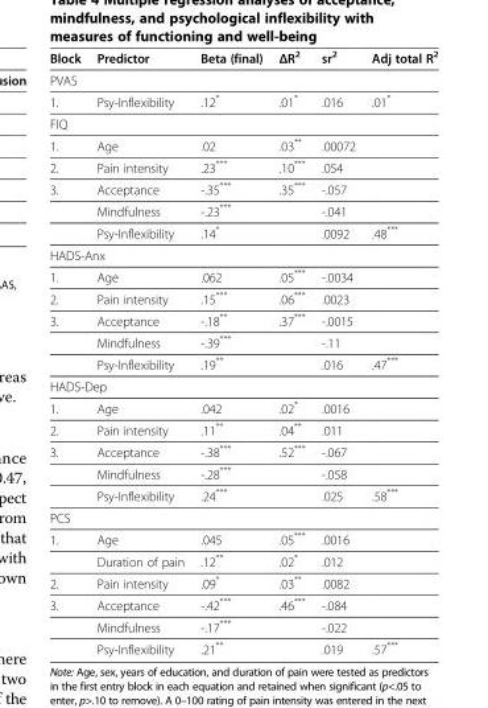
<table><thead><tr><td>Block</td><td>Predictor</td><td>Beta (final)</td><td>ΔR<sup>2</sup></td><td>sr<sup>2</sup></td><td>Adj total R<sup>2</sup></td></tr></thead><tbody><tr><td colspan="6">PVAS</td></tr><tr><td>1.</td><td>Psy-Inflexibility</td><td>.12*</td><td>.01*</td><td>.016</td><td>.01*</td></tr><tr><td colspan="6">FIQ</td></tr><tr><td>1.</td><td>Age</td><td>.02</td><td>.03**</td><td>.00072</td><td></td></tr><tr><td>2.</td><td>Pain intensity</td><td>.23***</td><td>.10***</td><td>.054</td><td></td></tr><tr><td rowspan="3">3.</td><td>Acceptance</td><td>-.35***</td><td>.35***</td><td>-.057</td><td></td></tr><tr><td>Mindfulness</td><td>-.23***</td><td></td><td>-.041</td><td></td></tr><tr><td>Psy-Inflexibility</td><td>.14*</td><td></td><td>.0092</td><td>.48***</td></tr><tr><td colspan="6">HADS-Anx</td></tr><tr><td>1.</td><td>Age</td><td>.062</td><td>.05***</td><td>-.0034</td><td></td></tr><tr><td>2.</td><td>Pain intensity</td><td>.15***</td><td>.06***</td><td>.0023</td><td></td></tr><tr><td rowspan="3">3.</td><td>Acceptance</td><td>-.18**</td><td>.37***</td><td>-.0015</td><td></td></tr><tr><td>Mindfulness</td><td>-.39***</td><td></td><td>-.11</td><td></td></tr><tr><td>Psy-Inflexibility</td><td>.19**</td><td></td><td>.016</td><td>.47***</td></tr><tr><td colspan="6">HADS-Dep</td></tr><tr><td>1.</td><td>Age</td><td>.042</td><td>.02*</td><td>.0016</td><td></td></tr><tr><td>2.</td><td>Pain intensity</td><td>.11**</td><td>.04**</td><td>.011</td><td></td></tr><tr><td rowspan="3">3.</td><td>Acceptance</td><td>-.38***</td><td>.52***</td><td>-.067</td><td></td></tr><tr><td>Mindfulness</td><td>-.28***</td><td></td><td>-.058</td><td></td></tr><tr><td>Psy-Inflexibility</td><td>.24***</td><td></td><td>.025</td><td>.58***</td></tr><tr><td colspan="6">PCS</td></tr><tr><td rowspan="2">1.</td><td>Age</td><td>.045</td><td>.05***</td><td>.0016</td><td></td></tr><tr><td>Duration of pain</td><td>.12**</td><td>.02*</td><td>.012</td><td></td></tr><tr><td>2.</td><td>Pain intensity</td><td>.09*</td><td>.03**</td><td>.0082</td><td></td></tr><tr><td rowspan="3">3.</td><td>Acceptance</td><td>-.42***</td><td>.46***</td><td>-.084</td><td></td></tr><tr><td>Mindfulness</td><td>-.17***</td><td></td><td>-.022</td><td></td></tr><tr><td>Psy-Inflexibility</td><td>.21**</td><td></td><td>.019</td><td>.57***</td></tr></tbody></table>